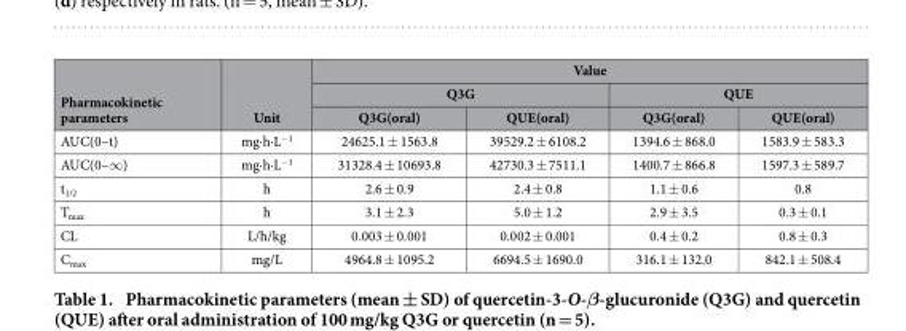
<table><thead><tr><td rowspan="3">Pharmacokinetic parameters</td><td rowspan="3">Unit</td><td colspan="4">Value</td></tr><tr><td colspan="2">Q3G</td><td colspan="2">QUE</td></tr><tr><td>Q3G(oral)</td><td>QUE(oral)</td><td>Q3G(oral)</td><td>QUE(oral)</td></tr></thead><tbody><tr><td>AUC(0–t)</td><td>mg·h·L<sup>−1</sup></td><td>24625.1 ± 1563.8</td><td>39529.2 ± 6108.2</td><td>1394.6 ± 868.0</td><td>1583.9 ± 583.3</td></tr><tr><td>AUC(0–∞ )</td><td>mg·h·L<sup>−1</sup></td><td>31328.4 ± 10693.8</td><td>42730.3 ± 7511.1</td><td>1400.7 ± 866.8</td><td>1597.3 ± 589.7</td></tr><tr><td>t<sub>1/2</sub></td><td>h</td><td>2.6 ± 0.9</td><td>2.4 ± 0.8</td><td>1.1 ± 0.6</td><td>0.8</td></tr><tr><td>T<sub>max</sub></td><td>h</td><td>3.1 ± 2.3</td><td>5.0 ± 1.2</td><td>2.9 ± 3.5</td><td>0.3 ± 0.1</td></tr><tr><td>CL</td><td>L/h/kg</td><td>0.003 ± 0.001</td><td>0.002 ± 0.001</td><td>0.4 ± 0.2</td><td>0.8 ± 0.3</td></tr><tr><td>C<sub>max</sub></td><td>mg/L</td><td>4964.8 ± 1095.2</td><td>6694.5 ± 1690.0</td><td>316.1 ± 132.0</td><td>842.1 ± 508.4</td></tr></tbody></table>